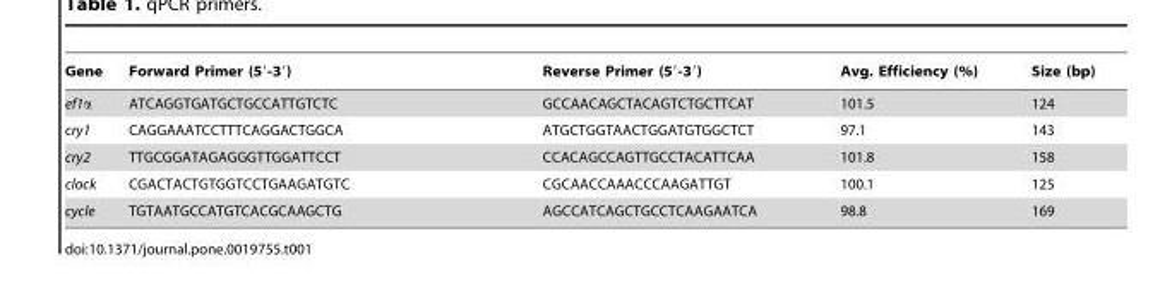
<table><thead><tr><td>Gene</td><td>Forward Primer (5′-3′)</td><td>Reverse Primer (5′-3′)</td><td>Avg. Efficiency (%)</td><td>Size (bp)</td></tr></thead><tbody><tr><td>ef1α</td><td>ATCAGGTGATGCTGCCATTGTCTC</td><td>GCCAACAGCTACAGTCTGCTTCAT</td><td>101.5</td><td>124</td></tr><tr><td>cry1</td><td>CAGGAAATCCTTTCAGGACTGGCA</td><td>ATGCTGGTAACTGGATGTGGCTCT</td><td>97.1</td><td>143</td></tr><tr><td>cry2</td><td>TTGCGGATAGAGGGTTGGATTCCT</td><td>CCACAGCCAGTTGCCTACATTCAA</td><td>101.8</td><td>158</td></tr><tr><td>clock</td><td>CGACTACTGTGGTCCTGAAGATGTC</td><td>CGCAACCAAACCCAAGATTGT</td><td>100.1</td><td>125</td></tr><tr><td>cycle</td><td>TGTAATGCCATGTCACGCAAGCTG</td><td>AGCCATCAGCTGCCTCAAGAATCA</td><td>98.8</td><td>169</td></tr></tbody></table>